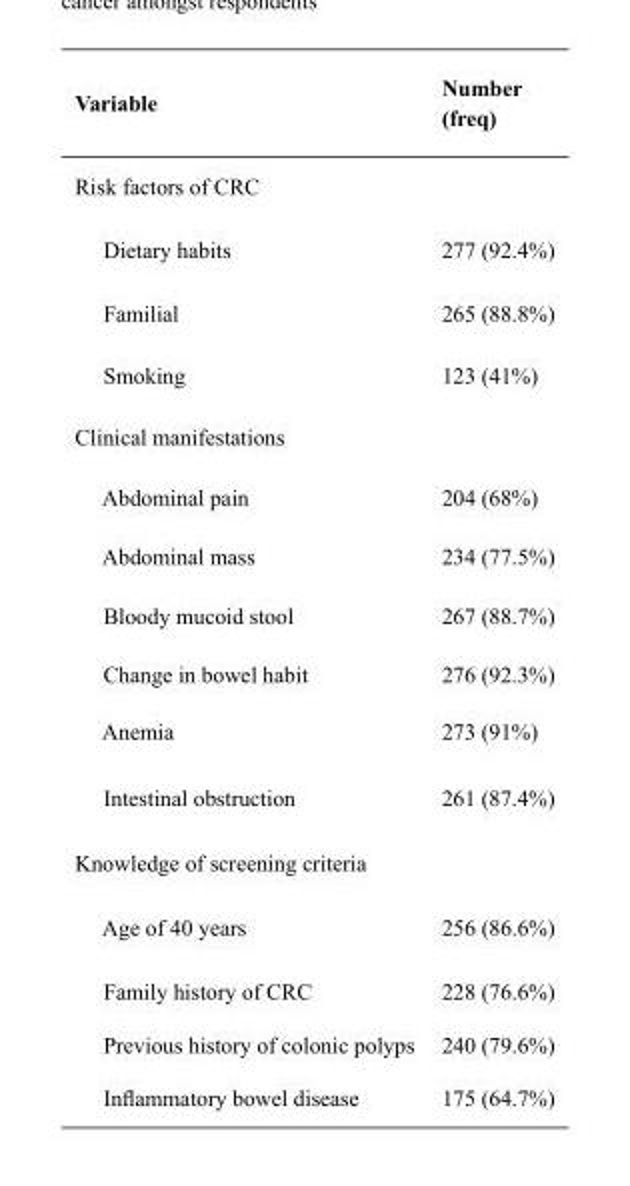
<table><thead><tr><td>Variable</td><td>Number (freq)</td></tr></thead><tbody><tr><td colspan="2">Risk factors of CRC</td></tr><tr><td>Dietary habits</td><td>277 (92.4%)</td></tr><tr><td>Familial</td><td>265 (88.8%)</td></tr><tr><td>Smoking</td><td>123 (41%)</td></tr><tr><td colspan="2">Clinical manifestations</td></tr><tr><td>Abdominal pain</td><td>204 (68%)</td></tr><tr><td>Abdominal mass</td><td>234 (77.5%)</td></tr><tr><td>Bloody mucoid stool</td><td>267 (88.7%)</td></tr><tr><td>Change in bowel habit</td><td>276 (92.3%)</td></tr><tr><td>Anemia</td><td>273 (91%)</td></tr><tr><td>Intestinal obstruction</td><td>261 (87.4%)</td></tr><tr><td colspan="2">Knowledge of screening criteria</td></tr><tr><td>Age of 40 years</td><td>256 (86.6%)</td></tr><tr><td>Family history of CRC</td><td>228 (76.6%)</td></tr><tr><td>Previous history of colonic polyps</td><td>240 (79.6%)</td></tr><tr><td>Inflammatory bowel disease</td><td>175 (64.7%)</td></tr></tbody></table>